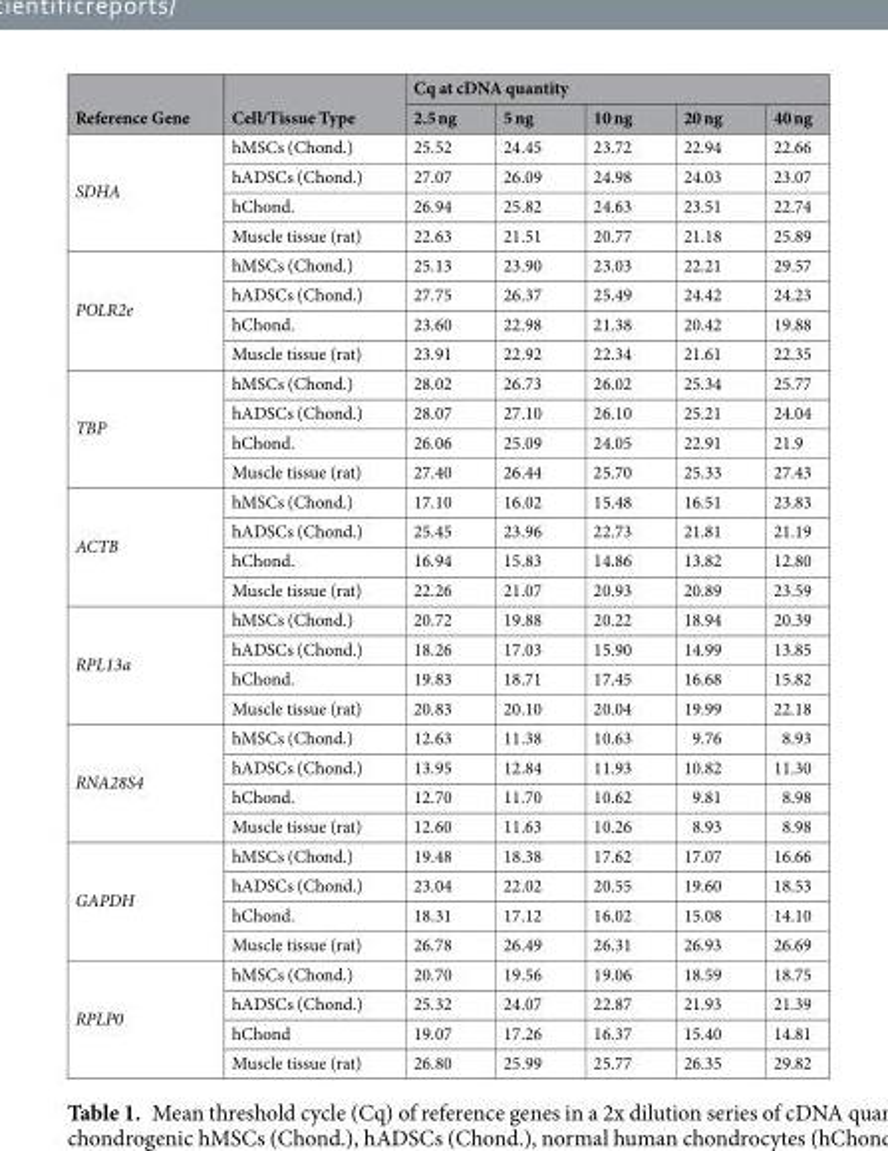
<table><thead><tr><td rowspan="2">Reference Gene</td><td rowspan="2">Cell/Tissue Type</td><td colspan="5">Cq at cDNA quantity</td></tr><tr><td>2.5 ng</td><td>5 ng</td><td>10 ng</td><td>20 ng</td><td>40 ng</td></tr></thead><tbody><tr><td rowspan="4">SDHA</td><td>hMSCs (Chond.)</td><td>25.52</td><td>24.45</td><td>23.72</td><td>22.94</td><td>22.66</td></tr><tr><td>hADSCs (Chond.)</td><td>27.07</td><td>26.09</td><td>24.98</td><td>24.03</td><td>23.07</td></tr><tr><td>hChond.</td><td>26.94</td><td>25.82</td><td>24.63</td><td>23.51</td><td>22.74</td></tr><tr><td>Muscle tissue (rat)</td><td>22.63</td><td>21.51</td><td>20.77</td><td>21.18</td><td>25.89</td></tr><tr><td rowspan="4">POLR2e</td><td>hMSCs (Chond.)</td><td>25.13</td><td>23.90</td><td>23.03</td><td>22.21</td><td>29.57</td></tr><tr><td>hADSCs (Chond.)</td><td>27.75</td><td>26.37</td><td>25.49</td><td>24.42</td><td>24.23</td></tr><tr><td>hChond.</td><td>23.60</td><td>22.98</td><td>21.38</td><td>20.42</td><td>19.88</td></tr><tr><td>Muscle tissue (rat)</td><td>23.91</td><td>22.92</td><td>22.34</td><td>21.61</td><td>22.35</td></tr><tr><td rowspan="4">TBP</td><td>hMSCs (Chond.)</td><td>28.02</td><td>26.73</td><td>26.02</td><td>25.34</td><td>25.77</td></tr><tr><td>hADSCs (Chond.)</td><td>28.07</td><td>27.10</td><td>26.10</td><td>25.21</td><td>24.04</td></tr><tr><td>hChond.</td><td>26.06</td><td>25.09</td><td>24.05</td><td>22.91</td><td>21.9</td></tr><tr><td>Muscle tissue (rat)</td><td>27.40</td><td>26.44</td><td>25.70</td><td>25.33</td><td>27.43</td></tr><tr><td rowspan="4">ACTB</td><td>hMSCs (Chond.)</td><td>17.10</td><td>16.02</td><td>15.48</td><td>16.51</td><td>23.83</td></tr><tr><td>hADSCs (Chond.)</td><td>25.45</td><td>23.96</td><td>22.73</td><td>21.81</td><td>21.19</td></tr><tr><td>hChond.</td><td>16.94</td><td>15.83</td><td>14.86</td><td>13.82</td><td>12.80</td></tr><tr><td>Muscle tissue (rat)</td><td>22.26</td><td>21.07</td><td>20.93</td><td>20.89</td><td>23.59</td></tr><tr><td rowspan="4">RPL13a</td><td>hMSCs (Chond.)</td><td>20.72</td><td>19.88</td><td>20.22</td><td>18.94</td><td>20.39</td></tr><tr><td>hADSCs (Chond.)</td><td>18.26</td><td>17.03</td><td>15.90</td><td>14.99</td><td>13.85</td></tr><tr><td>hChond.</td><td>19.83</td><td>18.71</td><td>17.45</td><td>16.68</td><td>15.82</td></tr><tr><td>Muscle tissue (rat)</td><td>20.83</td><td>20.10</td><td>20.04</td><td>19.99</td><td>22.18</td></tr><tr><td rowspan="4">RNA28S4</td><td>hMSCs (Chond.)</td><td>12.63</td><td>11.38</td><td>10.63</td><td>9.76</td><td>8.93</td></tr><tr><td>hADSCs (Chond.)</td><td>13.95</td><td>12.84</td><td>11.93</td><td>10.82</td><td>11.30</td></tr><tr><td>hChond.</td><td>12.70</td><td>11.70</td><td>10.62</td><td>9.81</td><td>8.98</td></tr><tr><td>Muscle tissue (rat)</td><td>12.60</td><td>11.63</td><td>10.26</td><td>8.93</td><td>8.98</td></tr><tr><td rowspan="4">GAPDH</td><td>hMSCs (Chond.)</td><td>19.48</td><td>18.38</td><td>17.62</td><td>17.07</td><td>16.66</td></tr><tr><td>hADSCs (Chond.)</td><td>23.04</td><td>22.02</td><td>20.55</td><td>19.60</td><td>18.53</td></tr><tr><td>hChond.</td><td>18.31</td><td>17.12</td><td>16.02</td><td>15.08</td><td>14.10</td></tr><tr><td>Muscle tissue (rat)</td><td>26.78</td><td>26.49</td><td>26.31</td><td>26.93</td><td>26.69</td></tr><tr><td rowspan="4">RPLP0</td><td>hMSCs (Chond.)</td><td>20.70</td><td>19.56</td><td>19.06</td><td>18.59</td><td>18.75</td></tr><tr><td>hADSCs (Chond.)</td><td>25.32</td><td>24.07</td><td>22.87</td><td>21.93</td><td>21.39</td></tr><tr><td>hChond</td><td>19.07</td><td>17.26</td><td>16.37</td><td>15.40</td><td>14.81</td></tr><tr><td>Muscle tissue (rat)</td><td>26.80</td><td>25.99</td><td>25.77</td><td>26.35</td><td>29.82</td></tr></tbody></table>